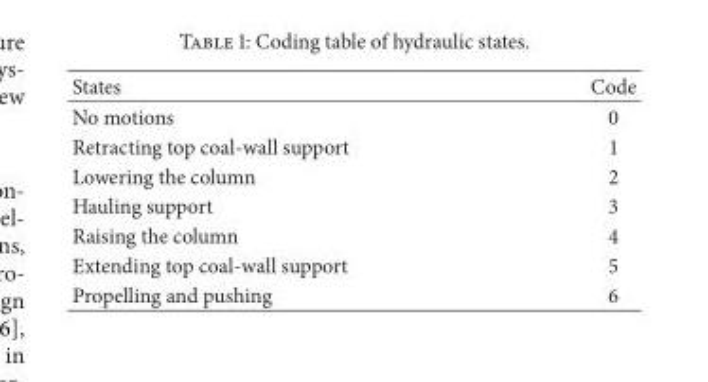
<table><thead><tr><td>States</td><td>Code</td></tr></thead><tbody><tr><td>No motions</td><td>0</td></tr><tr><td>Retracting top coal-wall support</td><td>1</td></tr><tr><td>Lowering the column</td><td>2</td></tr><tr><td>Hauling support</td><td>3</td></tr><tr><td>Raising the column</td><td>4</td></tr><tr><td>Extending top coal-wall support</td><td>5</td></tr><tr><td>Propelling and pushing</td><td>6</td></tr></tbody></table>